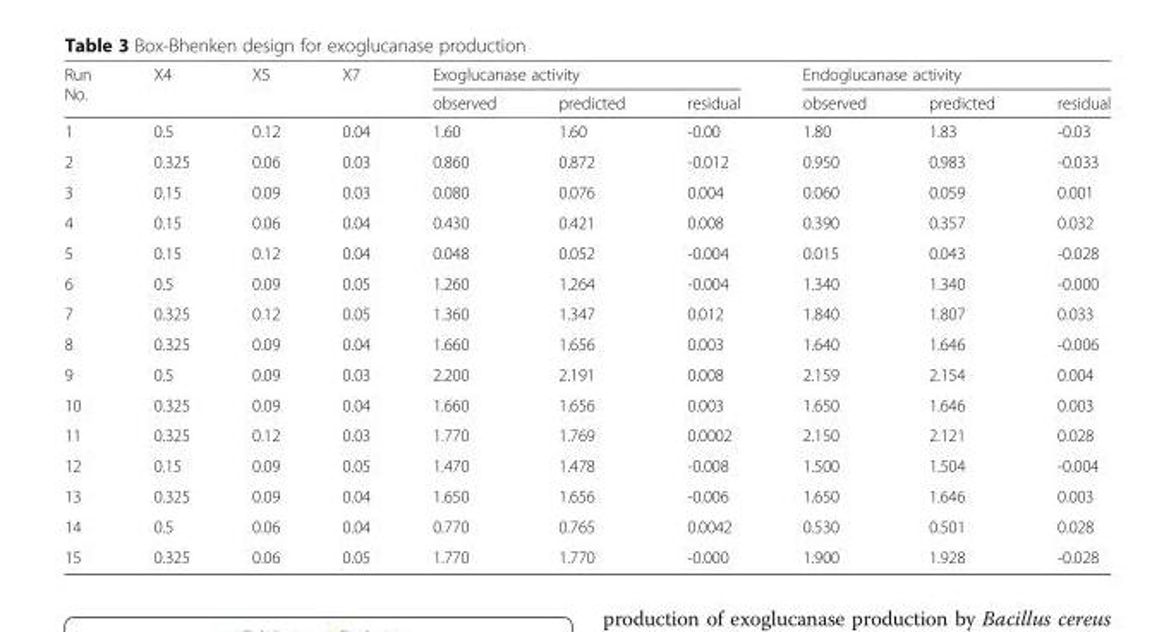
<table><thead><tr><td rowspan="2">Run No.</td><td rowspan="2">X4</td><td rowspan="2">X5</td><td rowspan="2">X7</td><td colspan="3">Exoglucanase activity</td><td colspan="3">Endoglucanase activity</td></tr><tr><td>observed</td><td>predicted</td><td>residual</td><td>observed</td><td>predicted</td><td>residual</td></tr></thead><tbody><tr><td>1</td><td>0.5</td><td>0.12</td><td>0.04</td><td>1.60</td><td>1.60</td><td>-0.00</td><td>1.80</td><td>1.83</td><td>-0.03</td></tr><tr><td>2</td><td>0.325</td><td>0.06</td><td>0.03</td><td>0.860</td><td>0.872</td><td>-0.012</td><td>0.950</td><td>0.983</td><td>-0.033</td></tr><tr><td>3</td><td>0.15</td><td>0.09</td><td>0.03</td><td>0.080</td><td>0.076</td><td>0.004</td><td>0.060</td><td>0.059</td><td>0.001</td></tr><tr><td>4</td><td>0.15</td><td>0.06</td><td>0.04</td><td>0.430</td><td>0.421</td><td>0.008</td><td>0.390</td><td>0.357</td><td>0.032</td></tr><tr><td>5</td><td>0.15</td><td>0.12</td><td>0.04</td><td>0.048</td><td>0.052</td><td>-0.004</td><td>0.015</td><td>0.043</td><td>-0.028</td></tr><tr><td>6</td><td>0.5</td><td>0.09</td><td>0.05</td><td>1.260</td><td>1.264</td><td>-0.004</td><td>1.340</td><td>1.340</td><td>-0.000</td></tr><tr><td>7</td><td>0.325</td><td>0.12</td><td>0.05</td><td>1.360</td><td>1.347</td><td>0.012</td><td>1.840</td><td>1.807</td><td>0.033</td></tr><tr><td>8</td><td>0.325</td><td>0.09</td><td>0.04</td><td>1.660</td><td>1.656</td><td>0.003</td><td>1.640</td><td>1.646</td><td>-0.006</td></tr><tr><td>9</td><td>0.5</td><td>0.09</td><td>0.03</td><td>2.200</td><td>2.191</td><td>0.008</td><td>2.159</td><td>2.154</td><td>0.004</td></tr><tr><td>10</td><td>0.325</td><td>0.09</td><td>0.04</td><td>1.660</td><td>1.656</td><td>0.003</td><td>1.650</td><td>1.646</td><td>0.003</td></tr><tr><td>11</td><td>0.325</td><td>0.12</td><td>0.03</td><td>1.770</td><td>1.769</td><td>0.0002</td><td>2.150</td><td>2.121</td><td>0.028</td></tr><tr><td>12</td><td>0.15</td><td>0.09</td><td>0.05</td><td>1.470</td><td>1.478</td><td>-0.008</td><td>1.500</td><td>1.504</td><td>-0.004</td></tr><tr><td>13</td><td>0.325</td><td>0.09</td><td>0.04</td><td>1.650</td><td>1.656</td><td>-0.006</td><td>1.650</td><td>1.646</td><td>0.003</td></tr><tr><td>14</td><td>0.5</td><td>0.06</td><td>0.04</td><td>0.770</td><td>0.765</td><td>0.0042</td><td>0.530</td><td>0.501</td><td>0.028</td></tr><tr><td>15</td><td>0.325</td><td>0.06</td><td>0.05</td><td>1.770</td><td>1.770</td><td>-0.000</td><td>1.900</td><td>1.928</td><td>-0.028</td></tr></tbody></table>